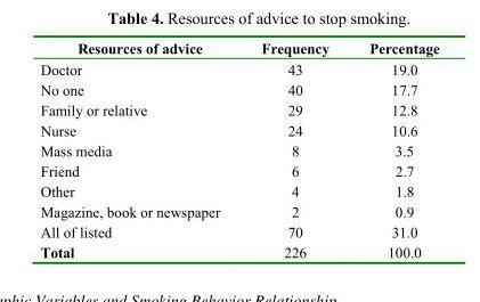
<table><thead><tr><td>Resources of advice</td><td>Frequency</td><td>Percentage</td></tr></thead><tbody><tr><td>Doctor</td><td>43</td><td>19.0</td></tr><tr><td>No one</td><td>40</td><td>17.7</td></tr><tr><td>Family or relative</td><td>29</td><td>12.8</td></tr><tr><td>Nurse</td><td>24</td><td>10.6</td></tr><tr><td>Mass media</td><td>8</td><td>3.5</td></tr><tr><td>Friend</td><td>6</td><td>2.7</td></tr><tr><td>Other</td><td>4</td><td>1.8</td></tr><tr><td>Magazine, book or newspaper</td><td>2</td><td>0.9</td></tr><tr><td>All of listed</td><td>70</td><td>31.0</td></tr><tr><td>Total</td><td>226</td><td>100.0</td></tr></tbody></table>